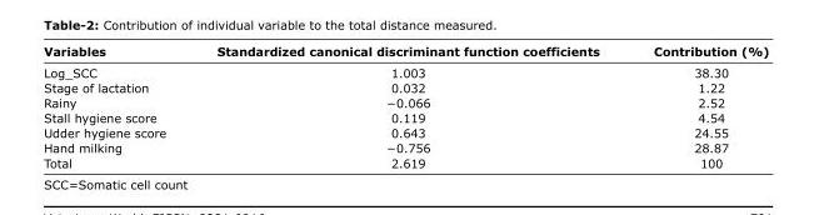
<table><thead><tr><td>Variables</td><td>Standardized canonical discriminant function coefficients</td><td>Contribution (%)</td></tr></thead><tbody><tr><td>Log_SCC</td><td>1.003</td><td>38.30</td></tr><tr><td>Stage of lactation</td><td>0.032</td><td>1.22</td></tr><tr><td>Rainy</td><td>−0.066</td><td>2.52</td></tr><tr><td>Stall hygiene score</td><td>0.119</td><td>4.54</td></tr><tr><td>Udder hygiene score</td><td>0.643</td><td>24.55</td></tr><tr><td>Hand milking</td><td>−0.756</td><td>28.87</td></tr><tr><td>Total</td><td>2.619</td><td>100</td></tr></tbody></table>